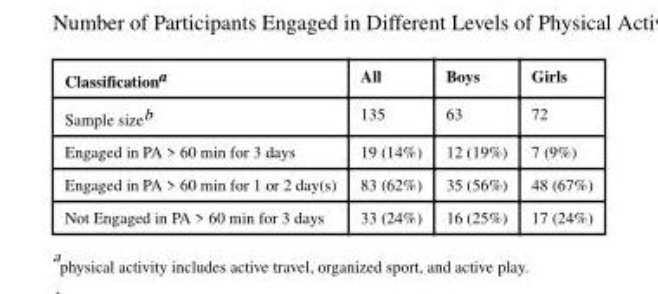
<table><thead><tr><td>Classification<sup>a</sup></td><td>All</td><td>Boys</td><td>Girls</td></tr></thead><tbody><tr><td>Sample size<sup>b</sup></td><td>135</td><td>63</td><td>72</td></tr><tr><td>Engaged in PA &gt; 60 min for 3 days</td><td>19 (14%)</td><td>12 (19%)</td><td>7 (9%)</td></tr><tr><td>Engaged in PA &gt; 60 min for 1 or 2 day(s)</td><td>83 (62%)</td><td>35 (56%)</td><td>48 (67%)</td></tr><tr><td>Not Engaged in PA &gt; 60 min for 3 days</td><td>33 (24%)</td><td>16 (25%)</td><td>17 (24%)</td></tr></tbody></table>